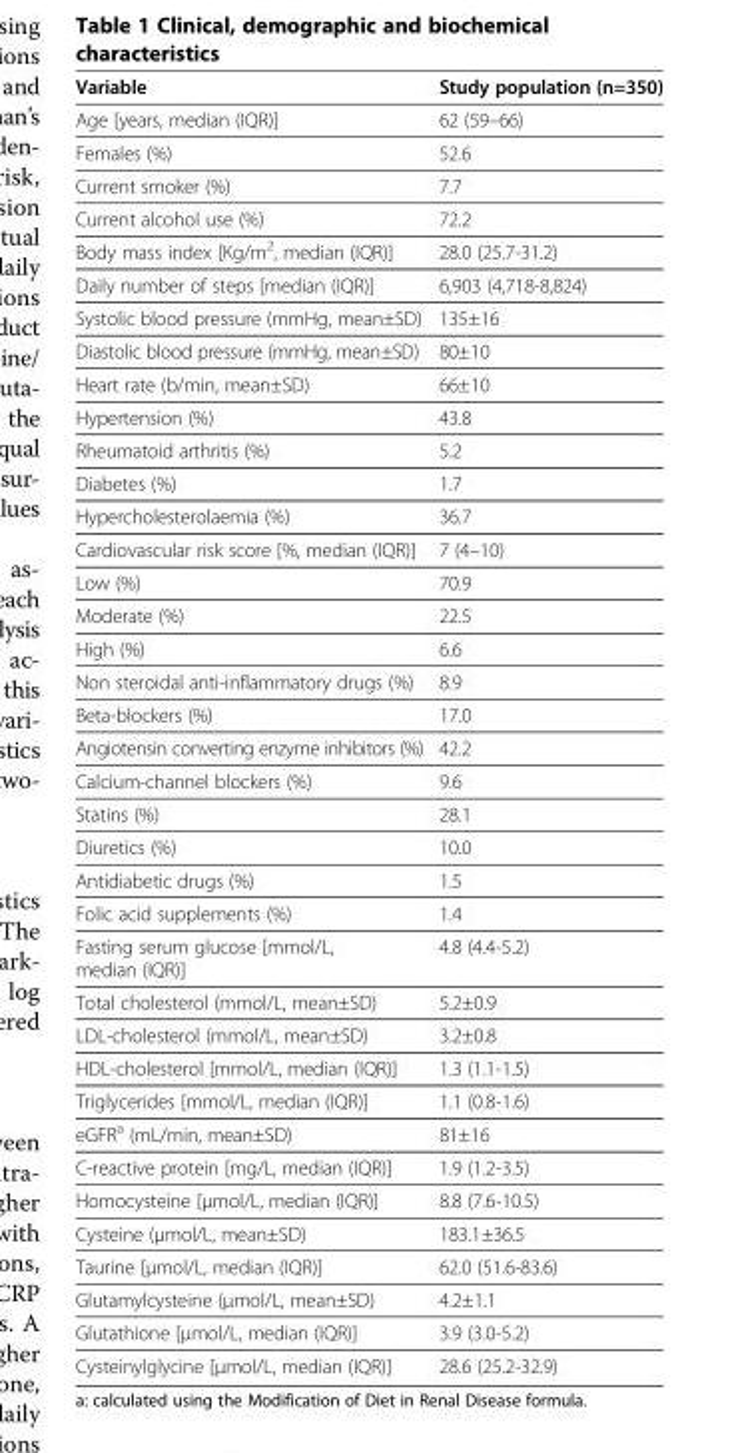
<table><thead><tr><td>Variable</td><td>Study population (n=350)</td></tr></thead><tbody><tr><td>Age [years, median (IQR)]</td><td>62 (59–66)</td></tr><tr><td>Females (%)</td><td>52.6</td></tr><tr><td>Current smoker (%)</td><td>7.7</td></tr><tr><td>Current alcohol use (%)</td><td>72.2</td></tr><tr><td>Body mass index [Kg/m<sup>2</sup>, median (IQR)]</td><td>28.0 (25.7-31.2)</td></tr><tr><td>Daily number of steps [median (IQR)]</td><td>6,903 (4,718-8,824)</td></tr><tr><td>Systolic blood pressure (mmHg, mean±SD)</td><td>135±16</td></tr><tr><td>Diastolic blood pressure (mmHg, mean±SD)</td><td>80±10</td></tr><tr><td>Heart rate (b/min, mean±SD)</td><td>66±10</td></tr><tr><td>Hypertension (%)</td><td>43.8</td></tr><tr><td>Rheumatoid arthritis (%)</td><td>5.2</td></tr><tr><td>Diabetes (%)</td><td>1.7</td></tr><tr><td>Hypercholesterolaemia (%)</td><td>36.7</td></tr><tr><td>Cardiovascular risk score [%, median (IQR)]</td><td>7 (4–10)</td></tr><tr><td>Low (%)</td><td>70.9</td></tr><tr><td>Moderate (%)</td><td>22.5</td></tr><tr><td>High (%)</td><td>6.6</td></tr><tr><td>Non steroidal anti-inflammatory drugs (%)</td><td>8.9</td></tr><tr><td>Beta-blockers (%)</td><td>17.0</td></tr><tr><td>Angiotensin converting enzyme inhibitors (%)</td><td>42.2</td></tr><tr><td>Calcium-channel blockers (%)</td><td>9.6</td></tr><tr><td>Statins (%)</td><td>28.1</td></tr><tr><td>Diuretics (%)</td><td>10.0</td></tr><tr><td>Antidiabetic drugs (%)</td><td>1.5</td></tr><tr><td>Folic acid supplements (%)</td><td>1.4</td></tr><tr><td>Fasting serum glucose [mmol/L, median (IQR)]</td><td>4.8 (4.4-5.2)</td></tr><tr><td>Total cholesterol (mmol/L, mean±SD)</td><td>5.2±0.9</td></tr><tr><td>LDL-cholesterol (mmol/L, mean±SD)</td><td>3.2±0.8</td></tr><tr><td>HDL-cholesterol [mmol/L, median (IQR)]</td><td>1.3 (1.1-1.5)</td></tr><tr><td>Triglycerides [mmol/L, median (IQR)]</td><td>1.1 (0.8-1.6)</td></tr><tr><td>eGFR<sup>a</sup> (mL/min, mean±SD)</td><td>81±16</td></tr><tr><td>C-reactive protein [mg/L, median (IQR)]</td><td>1.9 (1.2-3.5)</td></tr><tr><td>Homocysteine [μmol/L, median (IQR)]</td><td>8.8 (7.6-10.5)</td></tr><tr><td>Cysteine (μmol/L, mean±SD)</td><td>183.1±36.5</td></tr><tr><td>Taurine [μmol/L, median (IQR)]</td><td>62.0 (51.6-83.6)</td></tr><tr><td>Glutamylcysteine (μmol/L, mean±SD)</td><td>4.2±1.1</td></tr><tr><td>Glutathione [μmol/L, median (IQR)]</td><td>3.9 (3.0-5.2)</td></tr><tr><td>Cysteinylglycine [μmol/L, median (IQR)]</td><td>28.6 (25.2-32.9)</td></tr></tbody></table>